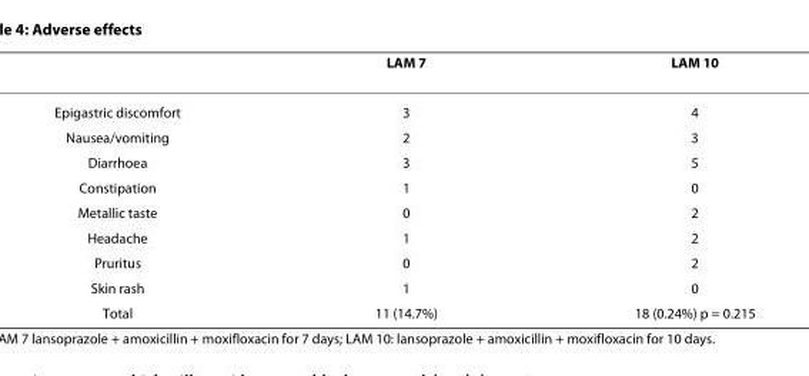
<table><thead><tr><td></td><td>LAM 7</td><td>LAM 10</td></tr></thead><tbody><tr><td>Epigastric discomfort</td><td>3</td><td>4</td></tr><tr><td>Nausea/vomiting</td><td>2</td><td>3</td></tr><tr><td>Diarrhoea</td><td>3</td><td>5</td></tr><tr><td>Constipation</td><td>1</td><td>0</td></tr><tr><td>Metallic taste</td><td>0</td><td>2</td></tr><tr><td>Headache</td><td>1</td><td>2</td></tr><tr><td>Pruritus</td><td>0</td><td>2</td></tr><tr><td>Skin rash</td><td>1</td><td>0</td></tr><tr><td>Total</td><td>11 (14.7%)</td><td>18 (0.24%) p = 0.215</td></tr></tbody></table>